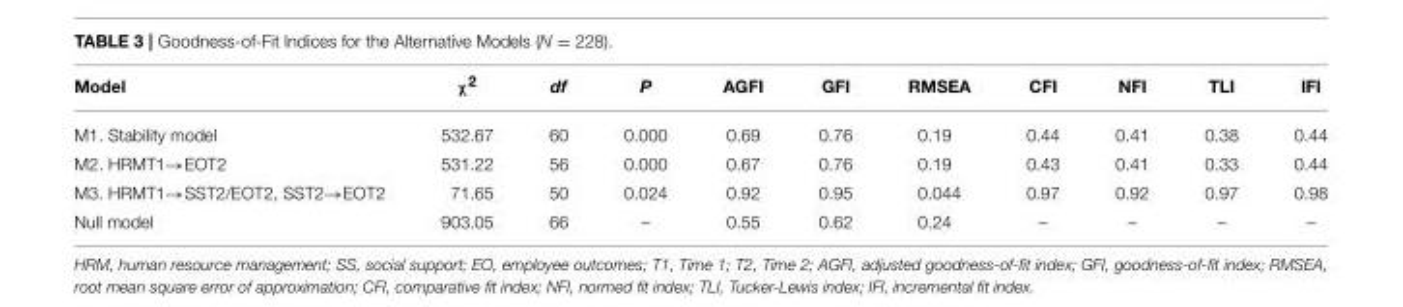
<table><thead><tr><td>Model</td><td>χ<sup>2</sup></td><td>df</td><td>P</td><td>AGFI</td><td>GFI</td><td>RMSEA</td><td>CFI</td><td>NFI</td><td>TLI</td><td>IFI</td></tr></thead><tbody><tr><td>M1. Stability model</td><td>532.67</td><td>60</td><td>0.000</td><td>0.69</td><td>0.76</td><td>0.19</td><td>0.44</td><td>0.41</td><td>0.38</td><td>0.44</td></tr><tr><td>M2. HRMT1→EOT2</td><td>531.22</td><td>56</td><td>0.000</td><td>0.67</td><td>0.76</td><td>0.19</td><td>0.43</td><td>0.41</td><td>0.33</td><td>0.44</td></tr><tr><td>M3. HRMT1→SST2/EOT2, SST2→EOT2</td><td>71.65</td><td>50</td><td>0.024</td><td>0.92</td><td>0.95</td><td>0.044</td><td>0.97</td><td>0.92</td><td>0.97</td><td>0.98</td></tr><tr><td>Null model</td><td>903.05</td><td>66</td><td>–</td><td>0.55</td><td>0.62</td><td>0.24</td><td>–</td><td>–</td><td>–</td><td>–</td></tr></tbody></table>